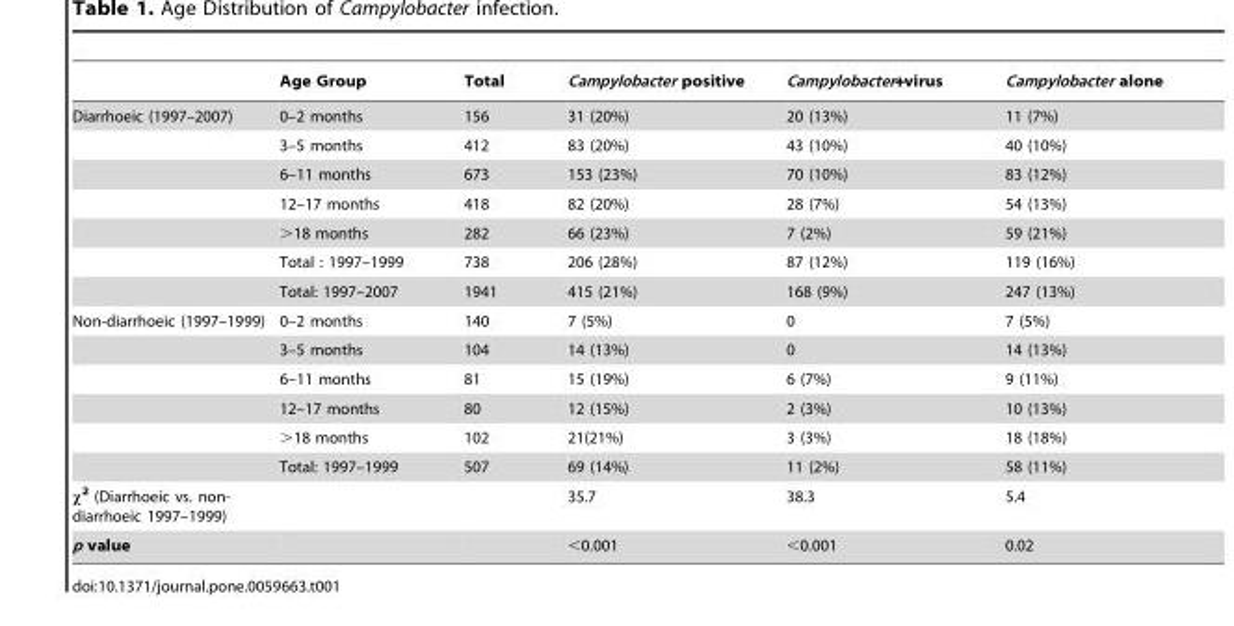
<table><thead><tr><td></td><td>Age Group</td><td>Total</td><td>Campylobacter positive</td><td>Campylobacter+virus</td><td>Campylobacter alone</td></tr></thead><tbody><tr><td rowspan="7">Diarrhoeic (1997–2007)</td><td>0–2 months</td><td>156</td><td>31 (20%)</td><td>20 (13%)</td><td>11 (7%)</td></tr><tr><td>3–5 months</td><td>412</td><td>83 (20%)</td><td>43 (10%)</td><td>40 (10%)</td></tr><tr><td>6–11 months</td><td>673</td><td>153 (23%)</td><td>70 (10%)</td><td>83 (12%)</td></tr><tr><td>12–17 months</td><td>418</td><td>82 (20%)</td><td>28 (7%)</td><td>54 (13%)</td></tr><tr><td>&gt;18 months</td><td>282</td><td>66 (23%)</td><td>7 (2%)</td><td>59 (21%)</td></tr><tr><td>Total : 1997–1999</td><td>738</td><td>206 (28%)</td><td>87 (12%)</td><td>119 (16%)</td></tr><tr><td>Total: 1997–2007</td><td>1941</td><td>415 (21%)</td><td>168 (9%)</td><td>247 (13%)</td></tr><tr><td rowspan="6">Non-diarrhoeic (1997–1999)</td><td>0–2 months</td><td>140</td><td>7 (5%)</td><td>0</td><td>7 (5%)</td></tr><tr><td>3–5 months</td><td>104</td><td>14 (13%)</td><td>0</td><td>14 (13%)</td></tr><tr><td>6–11 months</td><td>81</td><td>15 (19%)</td><td>6 (7%)</td><td>9 (11%)</td></tr><tr><td>12–17 months</td><td>80</td><td>12 (15%)</td><td>2 (3%)</td><td>10 (13%)</td></tr><tr><td>&gt;18 months</td><td>102</td><td>21(21%)</td><td>3 (3%)</td><td>18 (18%)</td></tr><tr><td>Total: 1997–1999</td><td>507</td><td>69 (14%)</td><td>11 (2%)</td><td>58 (11%)</td></tr><tr><td>χ<sup>2</sup> (Diarrhoeic vs. non- diarrhoeic 1997–1999)</td><td></td><td></td><td>35.7</td><td>38.3</td><td>5.4</td></tr><tr><td>p value</td><td></td><td></td><td>&lt;0.001</td><td>&lt;0.001</td><td>0.02</td></tr></tbody></table>